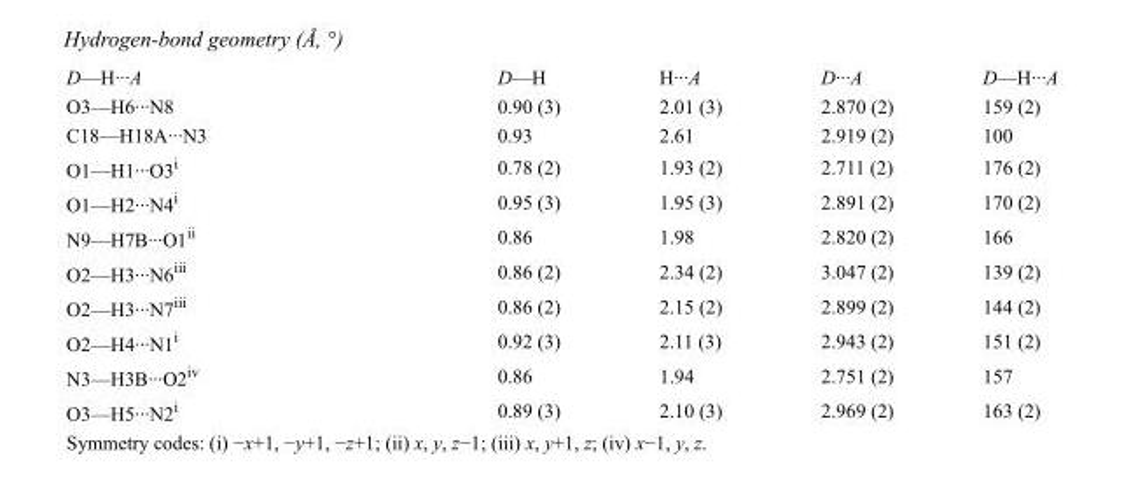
<table><tbody><tr><td>D—H···A</td><td>D—H</td><td>H···A</td><td>D···A</td><td>D—H···A</td></tr><tr><td>O3—H6···N8</td><td>0.90 (3)</td><td>2.01 (3)</td><td>2.870 (2)</td><td>159 (2)</td></tr><tr><td>C18—H18A···N3</td><td>0.93</td><td>2.61</td><td>2.919 (2)</td><td>100</td></tr><tr><td>O1—H1···O3<sup>i</sup></td><td>0.78 (2)</td><td>1.93 (2)</td><td>2.711 (2)</td><td>176 (2)</td></tr><tr><td>O1—H2···N4<sup>i</sup></td><td>0.95 (3)</td><td>1.95 (3)</td><td>2.891 (2)</td><td>170 (2)</td></tr><tr><td>N9—H7B···O1<sup>ii</sup></td><td>0.86</td><td>1.98</td><td>2.820 (2)</td><td>166</td></tr><tr><td>O2—H3···N6<sup>iii</sup></td><td>0.86 (2)</td><td>2.34 (2)</td><td>3.047 (2)</td><td>139 (2)</td></tr><tr><td>O2—H3···N7<sup>iii</sup></td><td>0.86 (2)</td><td>2.15 (2)</td><td>2.899 (2)</td><td>144 (2)</td></tr><tr><td>O2—H4···N1<sup>i</sup></td><td>0.92 (3)</td><td>2.11 (3)</td><td>2.943 (2)</td><td>151 (2)</td></tr><tr><td>N3—H3B···O2<sup>iv</sup></td><td>0.86</td><td>1.94</td><td>2.751 (2)</td><td>157</td></tr><tr><td>O3—H5···N2<sup>i</sup></td><td>0.89 (3)</td><td>2.10 (3)</td><td>2.969 (2)</td><td>163 (2)</td></tr></tbody></table>